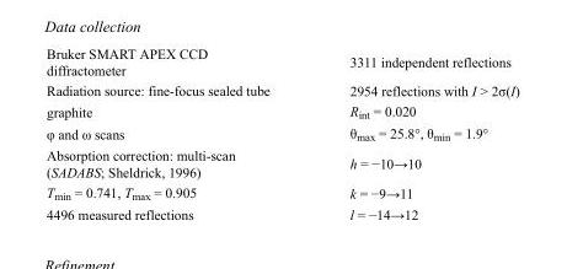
<table><tbody><tr><td>Bruker SMART APEX CCD diffractometer</td><td>3311 independent reflections</td></tr><tr><td>Radiation source: fine-focus sealed tube</td><td>2954 reflections with I &gt; 2σ(I)</td></tr><tr><td>graphite</td><td>R<sub>int</sub> = 0.020</td></tr><tr><td>φ and ω scans</td><td>θ<sub>max</sub> = 25.8°, θ<sub>min</sub> = 1.9°</td></tr><tr><td>Absorption correction: multi-scan (SADABS; Sheldrick, 1996)</td><td>h = −10→10</td></tr><tr><td>T<sub>min</sub> = 0.741, T<sub>max</sub> = 0.905</td><td>k = −9→11</td></tr><tr><td>4496 measured reflections</td><td>l = −14→12</td></tr></tbody></table>